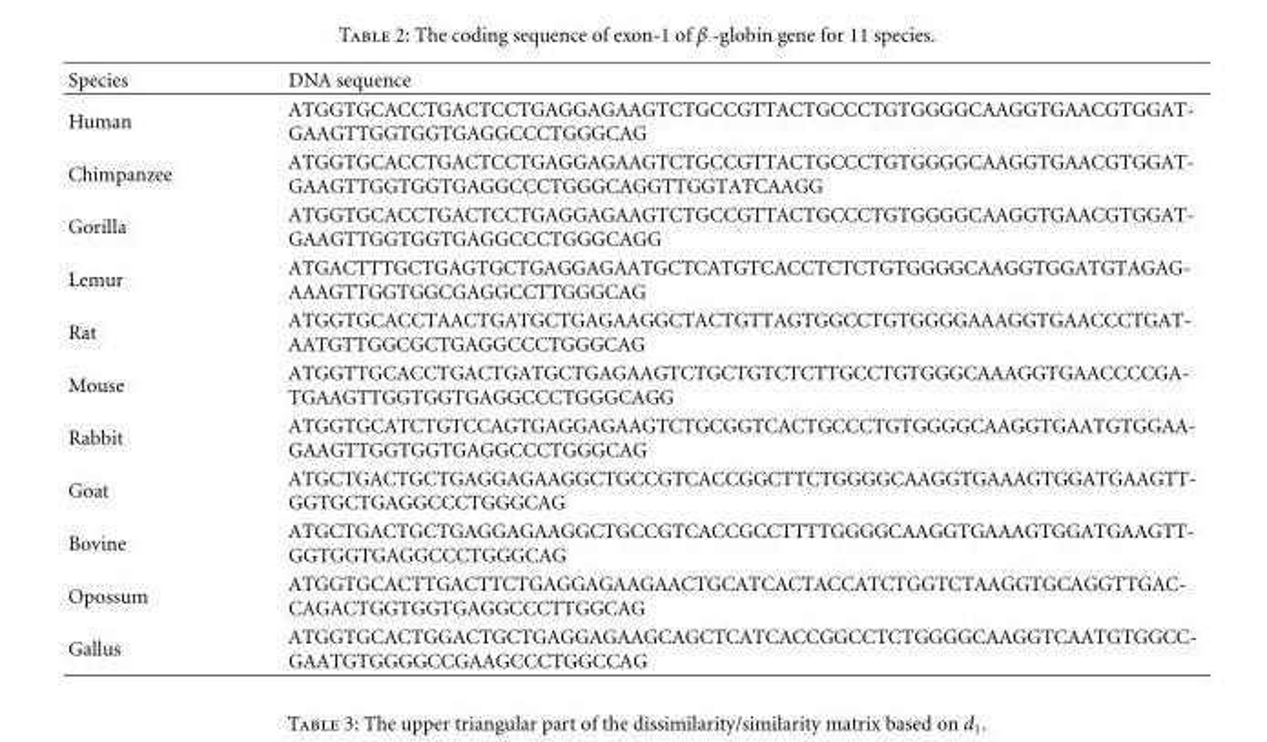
<table><thead><tr><td>Species</td><td>DNA sequence</td></tr></thead><tbody><tr><td>Human</td><td>ATGGTGCACCTGACTCCTGAGGAGAAGTCTGCCGTTACTGCCCTGTGGGGCAAGGTGAACGTGGAT- GAAGTTGGTGGTGAGGCCCTGGGCAG</td></tr><tr><td>Chimpanzee</td><td>ATGGTGCACCTGACTCCTGAGGAGAAGTCTGCCGTTACTGCCCTGTGGGGCAAGGTGAACGTGGAT- GAAGTTGGTGGTGAGGCCCTGGGCAGGTTGGTATCAAGG</td></tr><tr><td>Gorilla</td><td>ATGGTGCACCTGACTCCTGAGGAGAAGTCTGCCGTTACTGCCCTGTGGGGCAAGGTGAACGTGGAT- GAAGTTGGTGGTGAGGCCCTGGGCAGG</td></tr><tr><td>Lemur</td><td>ATGACTTTGCTGAGTGCTGAGGAGAATGCTCATGTCACCTCTCTGTGGGGCAAGGTGGATGTAGAG- AAAGTTGGTGGCGAGGCCTTGGGCAG</td></tr><tr><td>Rat</td><td>ATGGTGCACCTAACTGATGCTGAGAAGGCTACTGTTAGTGGCCTGTGGGGAAAGGTGAACCCTGAT- AATGTTGGCGCTGAGGCCCTGGGCAG</td></tr><tr><td>Mouse</td><td>ATGGTTGCACCTGACTGATGCTGAGAAGTCTGCTGTCTCTTGCCTGTGGGCAAAGGTGAACCCCGA- TGAAGTTGGTGGTGAGGCCCTGGGCAGG</td></tr><tr><td>Rabbit</td><td>ATGGTGCATCTGTCCAGTGAGGAGAAGTCTGCGGTCACTGCCCTGTGGGGCAAGGTGAATGTGGAA- GAAGTTGGTGGTGAGGCCCTGGGCAG</td></tr><tr><td>Goat</td><td>ATGCTGACTGCTGAGGAGAAGGCTGCCGTCACCGGCTTCTGGGGCAAGGTGAAAGTGGATGAAGTT- GGTGCTGAGGCCCTGGGCAG</td></tr><tr><td>Bovine</td><td>ATGCTGACTGCTGAGGAGAAGGCTGCCGTCACCGCCTTTTGGGGCAAGGTGAAAGTGGATGAAGTT- GGTGGTGAGGCCCTGGGCAG</td></tr><tr><td>Opossum</td><td>ATGGTGCACTTGACTTCTGAGGAGAAGAACTGCATCACTACCATCTGGTCTAAGGTGCAGGTTGAC- CAGACTGGTGGTGAGGCCCTTGGCAG</td></tr><tr><td>Gallus</td><td>ATGGTGCACTGGACTGCTGAGGAGAAGCAGCTCATCACCGGCCTCTGGGGCAAGGTCAATGTGGCC- GAATGTGGGGCCGAAGCCCTGGCCAG</td></tr></tbody></table>